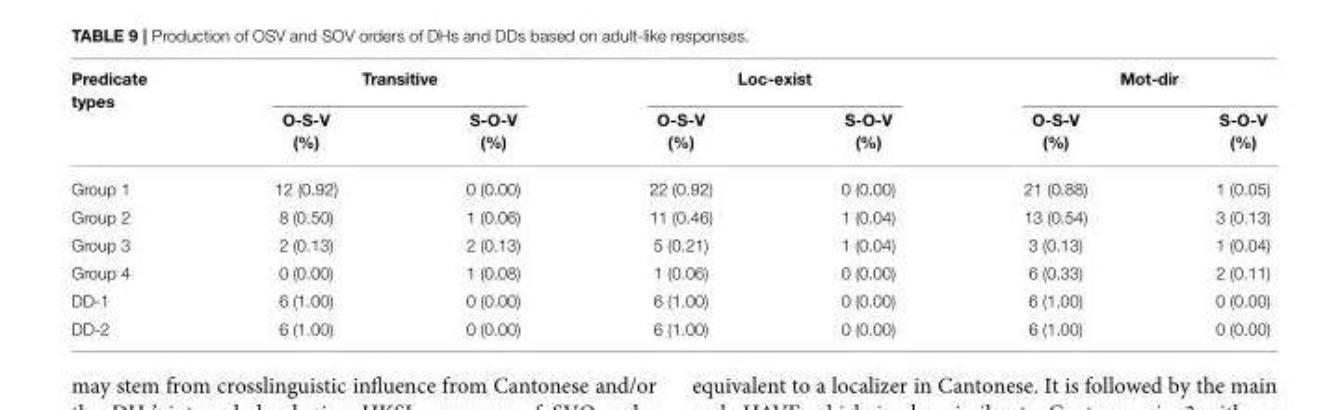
<table><thead><tr><td rowspan="2">Predicate types</td><td colspan="2">Transitive</td><td colspan="2">Loc-exist</td><td colspan="2">Mot-dir</td></tr><tr><td>O-S-V (%)</td><td>S-O-V (%)</td><td>O-S-V (%)</td><td>S-O-V (%)</td><td>O-S-V (%)</td><td>S-O-V (%)</td></tr></thead><tbody><tr><td>Group 1</td><td>12 (0.92)</td><td>0 (0.00)</td><td>22 (0.92)</td><td>0 (0.00)</td><td>21 (0.88)</td><td>1 (0.05)</td></tr><tr><td>Group 2</td><td>8 (0.50)</td><td>1 (0.06)</td><td>11 (0.46)</td><td>1 (0.04)</td><td>13 (0.54)</td><td>3 (0.13)</td></tr><tr><td>Group 3</td><td>2 (0.13)</td><td>2 (0.13)</td><td>5 (0.21)</td><td>1 (0.04)</td><td>3 (0.13)</td><td>1 (0.04)</td></tr><tr><td>Group 4</td><td>0 (0.00)</td><td>1 (0.08)</td><td>1 (0.06)</td><td>0 (0.00)</td><td>6 (0.33)</td><td>2 (0.11)</td></tr><tr><td>DD-1</td><td>6 (1.00)</td><td>0 (0.00)</td><td>6 (1.00)</td><td>0 (0.00)</td><td>6 (1.00)</td><td>0 (0.00)</td></tr><tr><td>DD-2</td><td>6 (1.00)</td><td>0 (0.00)</td><td>6 (1.00)</td><td>0 (0.00)</td><td>6 (1.00)</td><td>0 (0.00)</td></tr></tbody></table>